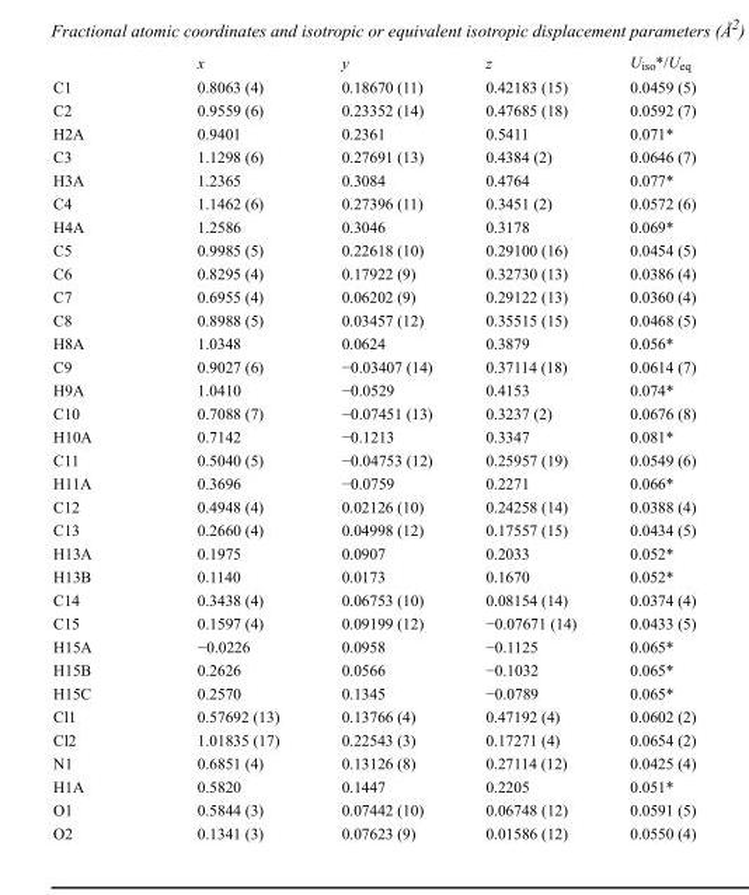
<table><thead><tr><td></td><td>x</td><td>y</td><td>z</td><td>U<sub>iso</sub>*/U<sub>eq</sub></td></tr></thead><tbody><tr><td>C1</td><td>0.8063 (4)</td><td>0.18670 (11)</td><td>0.42183 (15)</td><td>0.0459 (5)</td></tr><tr><td>C2</td><td>0.9559 (6)</td><td>0.23352 (14)</td><td>0.47685 (18)</td><td>0.0592 (7)</td></tr><tr><td>H2A</td><td>0.9401</td><td>0.2361</td><td>0.5411</td><td>0.071*</td></tr><tr><td>C3</td><td>1.1298 (6)</td><td>0.27691 (13)</td><td>0.4384 (2)</td><td>0.0646 (7)</td></tr><tr><td>H3A</td><td>1.2365</td><td>0.3084</td><td>0.4764</td><td>0.077*</td></tr><tr><td>C4</td><td>1.1462 (6)</td><td>0.27396 (11)</td><td>0.3451 (2)</td><td>0.0572 (6)</td></tr><tr><td>H4A</td><td>1.2586</td><td>0.3046</td><td>0.3178</td><td>0.069*</td></tr><tr><td>C5</td><td>0.9985 (5)</td><td>0.22618 (10)</td><td>0.29100 (16)</td><td>0.0454 (5)</td></tr><tr><td>C6</td><td>0.8295 (4)</td><td>0.17922 (9)</td><td>0.32730 (13)</td><td>0.0386 (4)</td></tr><tr><td>C7</td><td>0.6955 (4)</td><td>0.06202 (9)</td><td>0.29122 (13)</td><td>0.0360 (4)</td></tr><tr><td>C8</td><td>0.8988 (5)</td><td>0.03457 (12)</td><td>0.35515 (15)</td><td>0.0468 (5)</td></tr><tr><td>H8A</td><td>1.0348</td><td>0.0624</td><td>0.3879</td><td>0.056*</td></tr><tr><td>C9</td><td>0.9027 (6)</td><td>−0.03407 (14)</td><td>0.37114 (18)</td><td>0.0614 (7)</td></tr><tr><td>H9A</td><td>1.0410</td><td>−0.0529</td><td>0.4153</td><td>0.074*</td></tr><tr><td>C10</td><td>0.7088 (7)</td><td>−0.07451 (13)</td><td>0.3237 (2)</td><td>0.0676 (8)</td></tr><tr><td>H10A</td><td>0.7142</td><td>−0.1213</td><td>0.3347</td><td>0.081*</td></tr><tr><td>C11</td><td>0.5040 (5)</td><td>−0.04753 (12)</td><td>0.25957 (19)</td><td>0.0549 (6)</td></tr><tr><td>H11A</td><td>0.3696</td><td>−0.0759</td><td>0.2271</td><td>0.066*</td></tr><tr><td>C12</td><td>0.4948 (4)</td><td>0.02126 (10)</td><td>0.24258 (14)</td><td>0.0388 (4)</td></tr><tr><td>C13</td><td>0.2660 (4)</td><td>0.04998 (12)</td><td>0.17557 (15)</td><td>0.0434 (5)</td></tr><tr><td>H13A</td><td>0.1975</td><td>0.0907</td><td>0.2033</td><td>0.052*</td></tr><tr><td>H13B</td><td>0.1140</td><td>0.0173</td><td>0.1670</td><td>0.052*</td></tr><tr><td>C14</td><td>0.3438 (4)</td><td>0.06753 (10)</td><td>0.08154 (14)</td><td>0.0374 (4)</td></tr><tr><td>C15</td><td>0.1597 (4)</td><td>0.09199 (12)</td><td>−0.07671 (14)</td><td>0.0433 (5)</td></tr><tr><td>H15A</td><td>−0.0226</td><td>0.0958</td><td>−0.1125</td><td>0.065*</td></tr><tr><td>H15B</td><td>0.2626</td><td>0.0566</td><td>−0.1032</td><td>0.065*</td></tr><tr><td>H15C</td><td>0.2570</td><td>0.1345</td><td>−0.0789</td><td>0.065*</td></tr><tr><td>Cl1</td><td>0.57692 (13)</td><td>0.13766 (4)</td><td>0.47192 (4)</td><td>0.0602 (2)</td></tr><tr><td>Cl2</td><td>1.01835 (17)</td><td>0.22543 (3)</td><td>0.17271 (4)</td><td>0.0654 (2)</td></tr><tr><td>N1</td><td>0.6851 (4)</td><td>0.13126 (8)</td><td>0.27114 (12)</td><td>0.0425 (4)</td></tr><tr><td>H1A</td><td>0.5820</td><td>0.1447</td><td>0.2205</td><td>0.051*</td></tr><tr><td>O1</td><td>0.5844 (3)</td><td>0.07442 (10)</td><td>0.06748 (12)</td><td>0.0591 (5)</td></tr><tr><td>O2</td><td>0.1341 (3)</td><td>0.07623 (9)</td><td>0.01586 (12)</td><td>0.0550 (4)</td></tr></tbody></table>